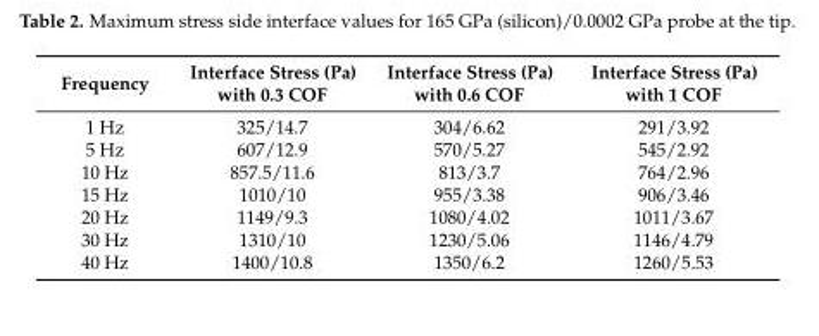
<table><thead><tr><td>Frequency</td><td>Interface Stress (Pa) with 0.3 COF</td><td>Interface Stress (Pa) with 0.6 COF</td><td>Interface Stress (Pa) with 1 COF</td></tr></thead><tbody><tr><td>1 Hz</td><td>325/14.7</td><td>304/6.62</td><td>291/3.92</td></tr><tr><td>5 Hz</td><td>607/12.9</td><td>570/5.27</td><td>545/2.92</td></tr><tr><td>10 Hz</td><td>857.5/11.6</td><td>813/3.7</td><td>764/2.96</td></tr><tr><td>15 Hz</td><td>1010/10</td><td>955/3.38</td><td>906/3.46</td></tr><tr><td>20 Hz</td><td>1149/9.3</td><td>1080/4.02</td><td>1011/3.67</td></tr><tr><td>30 Hz</td><td>1310/10</td><td>1230/5.06</td><td>1146/4.79</td></tr><tr><td>40 Hz</td><td>1400/10.8</td><td>1350/6.2</td><td>1260/5.53</td></tr></tbody></table>